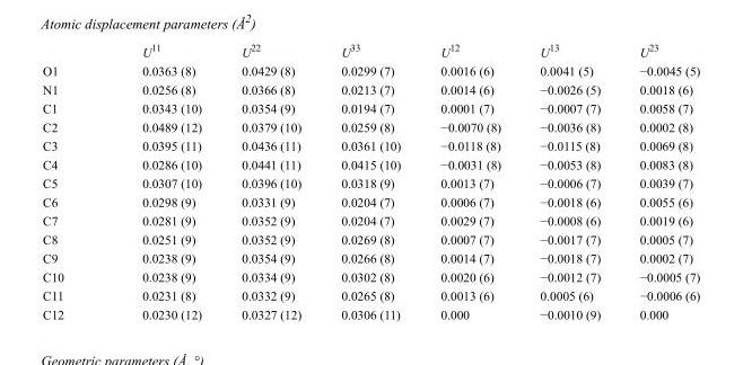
<table><thead><tr><td></td><td>U<sup>11</sup></td><td>U<sup>22</sup></td><td>U<sup>33</sup></td><td>U<sup>12</sup></td><td>U<sup>13</sup></td><td>U<sup>23</sup></td></tr></thead><tbody><tr><td>O1</td><td>0.0363 (8)</td><td>0.0429 (8)</td><td>0.0299 (7)</td><td>0.0016 (6)</td><td>0.0041 (5)</td><td>−0.0045 (5)</td></tr><tr><td>N1</td><td>0.0256 (8)</td><td>0.0366 (8)</td><td>0.0213 (7)</td><td>0.0014 (6)</td><td>−0.0026 (5)</td><td>0.0018 (6)</td></tr><tr><td>C1</td><td>0.0343 (10)</td><td>0.0354 (9)</td><td>0.0194 (7)</td><td>0.0001 (7)</td><td>−0.0007 (7)</td><td>0.0058 (7)</td></tr><tr><td>C2</td><td>0.0489 (12)</td><td>0.0379 (10)</td><td>0.0259 (8)</td><td>−0.0070 (8)</td><td>−0.0036 (8)</td><td>0.0002 (8)</td></tr><tr><td>C3</td><td>0.0395 (11)</td><td>0.0436 (11)</td><td>0.0361 (10)</td><td>−0.0118 (8)</td><td>−0.0115 (8)</td><td>0.0069 (8)</td></tr><tr><td>C4</td><td>0.0286 (10)</td><td>0.0441 (11)</td><td>0.0415 (10)</td><td>−0.0031 (8)</td><td>−0.0053 (8)</td><td>0.0083 (8)</td></tr><tr><td>C5</td><td>0.0307 (10)</td><td>0.0396 (10)</td><td>0.0318 (9)</td><td>0.0013 (7)</td><td>−0.0006 (7)</td><td>0.0039 (7)</td></tr><tr><td>C6</td><td>0.0298 (9)</td><td>0.0331 (9)</td><td>0.0204 (7)</td><td>0.0006 (7)</td><td>−0.0018 (6)</td><td>0.0055 (6)</td></tr><tr><td>C7</td><td>0.0281 (9)</td><td>0.0352 (9)</td><td>0.0204 (7)</td><td>0.0029 (7)</td><td>−0.0008 (6)</td><td>0.0019 (6)</td></tr><tr><td>C8</td><td>0.0251 (9)</td><td>0.0352 (9)</td><td>0.0269 (8)</td><td>0.0007 (7)</td><td>−0.0017 (7)</td><td>0.0005 (7)</td></tr><tr><td>C9</td><td>0.0238 (9)</td><td>0.0354 (9)</td><td>0.0266 (8)</td><td>0.0014 (7)</td><td>−0.0018 (7)</td><td>0.0002 (7)</td></tr><tr><td>C10</td><td>0.0238 (9)</td><td>0.0334 (9)</td><td>0.0302 (8)</td><td>0.0020 (6)</td><td>−0.0012 (7)</td><td>−0.0005 (7)</td></tr><tr><td>C11</td><td>0.0231 (8)</td><td>0.0332 (9)</td><td>0.0265 (8)</td><td>0.0013 (6)</td><td>0.0005 (6)</td><td>−0.0006 (6)</td></tr><tr><td>C12</td><td>0.0230 (12)</td><td>0.0327 (12)</td><td>0.0306 (11)</td><td>0.000</td><td>−0.0010 (9)</td><td>0.000</td></tr></tbody></table>